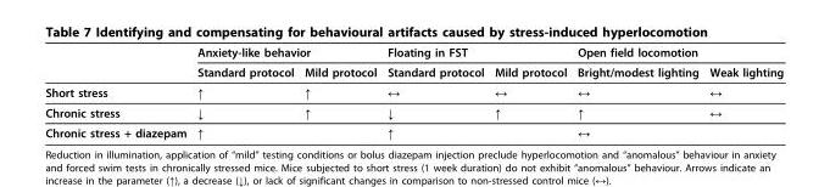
<table><thead><tr><td rowspan="2"></td><td colspan="2">Anxiety-like behavior</td><td colspan="2">Floating in FST</td><td colspan="2">Open field locomotion</td></tr><tr><td>Standard protocol</td><td>Mild protocol</td><td>Standard protocol</td><td>Mild protocol</td><td>Bright/modest lighting</td><td>Weak lighting</td></tr></thead><tbody><tr><td>Short stress</td><td>↑</td><td>↑</td><td>↔</td><td>↔</td><td>↔</td><td>↔</td></tr><tr><td>Chronic stress</td><td>↓</td><td>↑</td><td>↓</td><td>↑</td><td>↑</td><td>↔</td></tr><tr><td>Chronic stress + diazepam</td><td>↑</td><td></td><td>↑</td><td></td><td>↔</td><td></td></tr></tbody></table>